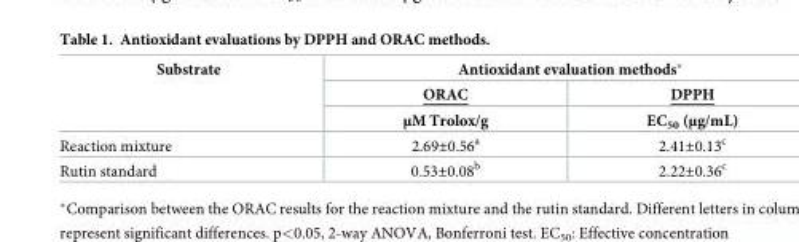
<table><thead><tr><td rowspan="3">Substrate</td><td colspan="2">Antioxidant evaluation methods*</td></tr><tr><td rowspan="2">ORAC μM Trolox/g</td><td rowspan="2">DPPH EC<sub>50</sub> (μg/mL)</td></tr><tr></tr></thead><tbody><tr><td>Reaction mixture</td><td>2.69±0.56<sup>a</sup></td><td>2.41±0.13<sup>c</sup></td></tr><tr><td>Rutin standard</td><td>0.53±0.08<sup>b</sup></td><td>2.22±0.36<sup>c</sup></td></tr></tbody></table>